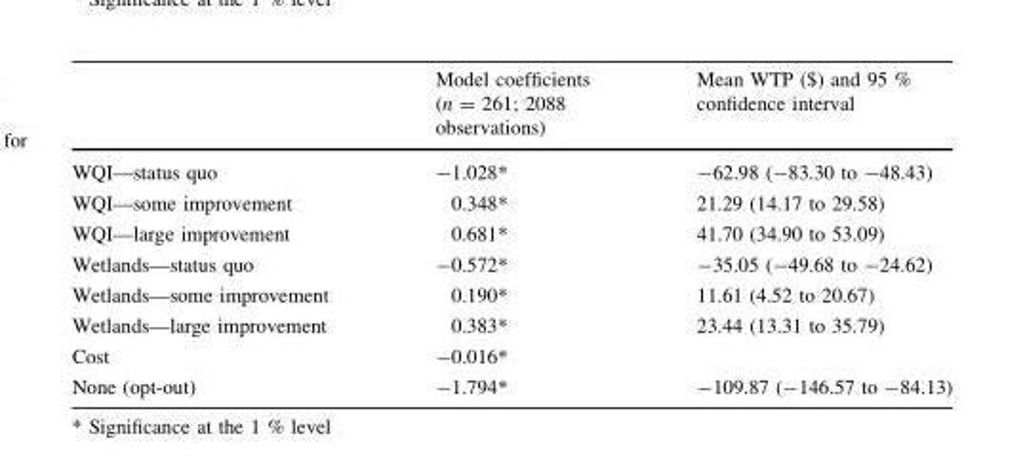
<table><thead><tr><td></td><td>Model coefficients (n = 261; 2088 observations)</td><td>Mean WTP ($) and 95 % confidence interval</td></tr></thead><tbody><tr><td>WQI—status quo</td><td>-1.028*</td><td>-62.98 (-83.30 to -48.43)</td></tr><tr><td>WQI—some improvement</td><td>0.348*</td><td>21.29 (14.17 to 29.58)</td></tr><tr><td>WQI—large improvement</td><td>0.681*</td><td>41.70 (34.90 to 53.09)</td></tr><tr><td>Wetlands—status quo</td><td>-0.572*</td><td>-35.05 (-49.68 to -24.62)</td></tr><tr><td>Wetlands—some improvement</td><td>0.190*</td><td>11.61 (4.52 to 20.67)</td></tr><tr><td>Wetlands—large improvement</td><td>0.383*</td><td>23.44 (13.31 to 35.79)</td></tr><tr><td>Cost</td><td>-0.016*</td><td></td></tr><tr><td>None (opt-out)</td><td>-1.794*</td><td>-109.87 (-146.57 to -84.13)</td></tr></tbody></table>